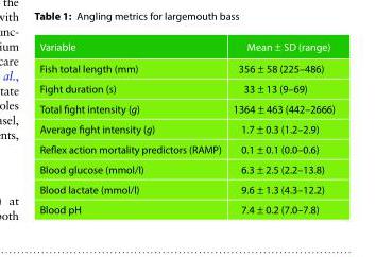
<table><thead><tr><td>Variable</td><td>Mean ± SD (range)</td></tr></thead><tbody><tr><td>Fish total length (mm)</td><td>356 ± 58 (225–486)</td></tr><tr><td>Fight duration (s)</td><td>33 ± 13 (9–69)</td></tr><tr><td>Total fight intensity (g)</td><td>1364 ± 463 (442–2666)</td></tr><tr><td>Average fight intensity (g)</td><td>1.7 ± 0.3 (1.2–2.9)</td></tr><tr><td>Reflex action mortality predictors (RAMP)</td><td>0.1 ± 0.1 (0.0–0.6)</td></tr><tr><td>Blood glucose (mmol/l)</td><td>6.3 ± 2.5 (2.2–13.8)</td></tr><tr><td>Blood lactate (mmol/l)</td><td>9.6 ± 1.3 (4.3–12.2)</td></tr><tr><td>Blood pH</td><td>7.4 ± 0.2 (7.0–7.8)</td></tr></tbody></table>